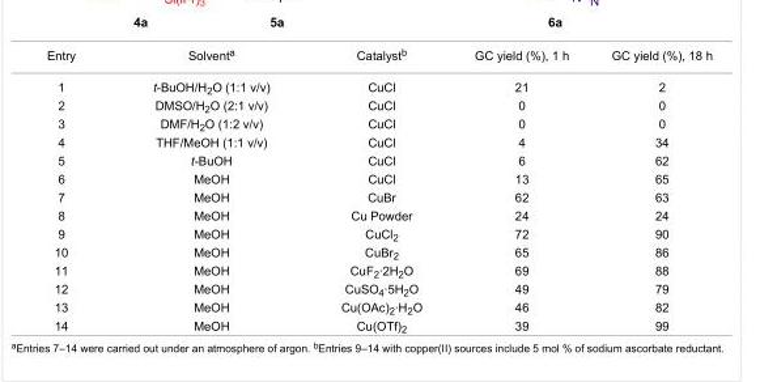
<table><tbody><tr><td>Entry</td><td>Solvent<sup>a</sup></td><td>Catalyst<sup>b</sup></td><td>GC yield (%), 1 h</td><td>GC yield (%), 18 h</td></tr><tr><td>1</td><td>t-BuOH/H<sub>2</sub>O (1:1 v/v)</td><td>CuCl</td><td>21</td><td>2</td></tr><tr><td>2</td><td>DMSO/H<sub>2</sub>O (2:1 v/v)</td><td>CuCl</td><td>0</td><td>0</td></tr><tr><td>3</td><td>DMF/H<sub>2</sub>O (1:2 v/v)</td><td>CuCl</td><td>0</td><td>0</td></tr><tr><td>4</td><td>THF/MeOH (1:1 v/v)</td><td>CuCl</td><td>4</td><td>34</td></tr><tr><td>5</td><td>t-BuOH</td><td>CuCl</td><td>6</td><td>62</td></tr><tr><td>6</td><td>MeOH</td><td>CuCl</td><td>13</td><td>65</td></tr><tr><td>7</td><td>MeOH</td><td>CuBr</td><td>62</td><td>63</td></tr><tr><td>8</td><td>MeOH</td><td>Cu Powder</td><td>24</td><td>24</td></tr><tr><td>9</td><td>MeOH</td><td>CuCl<sub>2</sub></td><td>72</td><td>90</td></tr><tr><td>10</td><td>MeOH</td><td>CuBr<sub>2</sub></td><td>65</td><td>86</td></tr><tr><td>11</td><td>MeOH</td><td>CuF<sub>2</sub>·2H<sub>2</sub>O</td><td>69</td><td>88</td></tr><tr><td>12</td><td>MeOH</td><td>CuSO<sub>4</sub>·5H<sub>2</sub>O</td><td>49</td><td>79</td></tr><tr><td>13</td><td>MeOH</td><td>Cu(OAc)<sub>2</sub>·H<sub>2</sub>O</td><td>46</td><td>82</td></tr><tr><td>14</td><td>MeOH</td><td>Cu(OTf)<sub>2</sub></td><td>39</td><td>99</td></tr></tbody></table>